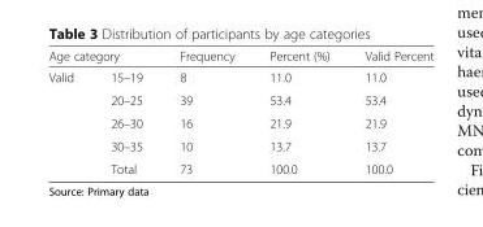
<table><thead><tr><td colspan="2">Age category</td><td rowspan="2">Frequency 8</td><td rowspan="2">Percent (%) 11.0</td><td rowspan="2">Valid Percent 11.0</td></tr><tr><td>Valid</td><td>15–19</td></tr></thead><tbody><tr><td></td><td>20–25</td><td>39</td><td>53.4</td><td>53.4</td></tr><tr><td></td><td>26–30</td><td>16</td><td>21.9</td><td>21.9</td></tr><tr><td rowspan="2"></td><td>30–35</td><td>10</td><td>13.7</td><td>13.7</td></tr><tr><td>Total</td><td>73</td><td>100.0</td><td>100.0</td></tr></tbody></table>